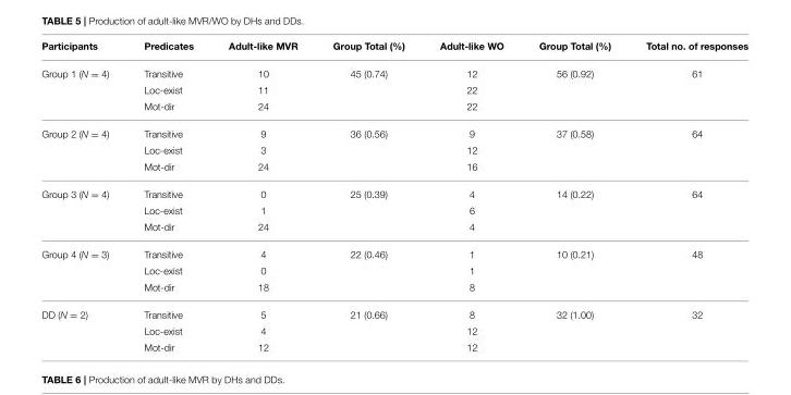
<table><thead><tr><td>Participants</td><td>Predicates</td><td>Adult-like MVR</td><td>Group Total (%)</td><td>Adult-like WO</td><td>Group Total (%)</td><td>Total no. of responses</td></tr></thead><tbody><tr><td rowspan="3">Group 1 (N = 4)</td><td>Transitive</td><td>10</td><td>45 (0.74)</td><td>12</td><td>56 (0.92)</td><td>61</td></tr><tr><td>Loc-exist</td><td>11</td><td></td><td>22</td><td></td><td></td></tr><tr><td>Mot-dir</td><td>24</td><td></td><td>22</td><td></td><td></td></tr><tr><td rowspan="3">Group 2 (N = 4)</td><td>Transitive</td><td>9</td><td>36 (0.56)</td><td>9</td><td>37 (0.58)</td><td>64</td></tr><tr><td>Loc-exist</td><td>3</td><td></td><td>12</td><td></td><td></td></tr><tr><td>Mot-dir</td><td>24</td><td></td><td>16</td><td></td><td></td></tr><tr><td rowspan="3">Group 3 (N = 4)</td><td>Transitive</td><td>0</td><td>25 (0.39)</td><td>4</td><td>14 (0.22)</td><td>64</td></tr><tr><td>Loc-exist</td><td>1</td><td></td><td>6</td><td></td><td></td></tr><tr><td>Mot-dir</td><td>24</td><td></td><td>4</td><td></td><td></td></tr><tr><td rowspan="3">Group 4 (N = 3)</td><td>Transitive</td><td>4</td><td>22 (0.46)</td><td>1</td><td>10 (0.21)</td><td>48</td></tr><tr><td>Loc-exist</td><td>0</td><td></td><td>1</td><td></td><td></td></tr><tr><td>Mot-dir</td><td>18</td><td></td><td>8</td><td></td><td></td></tr><tr><td rowspan="3">DD (N = 2)</td><td>Transitive</td><td>5</td><td>21 (0.66)</td><td>8</td><td>32 (1.00)</td><td>32</td></tr><tr><td>Loc-exist</td><td>4</td><td></td><td>12</td><td></td><td></td></tr><tr><td>Mot-dir</td><td>12</td><td></td><td>12</td><td></td><td></td></tr></tbody></table>